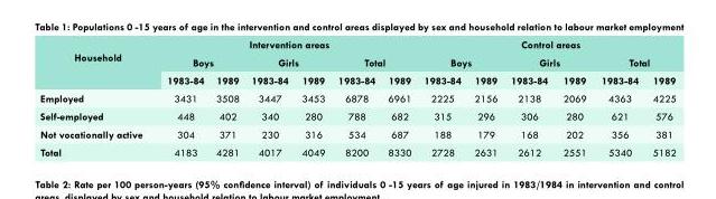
<table><thead><tr><td rowspan="3">Household</td><td colspan="6">Intervention areas</td><td colspan="6">Control areas</td></tr><tr><td colspan="2">Boys</td><td colspan="2">Girls</td><td colspan="2">Total</td><td colspan="2">Boys</td><td colspan="2">Girls</td><td colspan="2">Total</td></tr><tr><td>1983-84</td><td>1989</td><td>1983-84</td><td>1989</td><td>1983-84</td><td>1989</td><td>1983-84</td><td>1989</td><td>1983-84</td><td>1989</td><td>1983-84</td><td>1989</td></tr></thead><tbody><tr><td>Employed</td><td>3431</td><td>3508</td><td>3447</td><td>3453</td><td>6878</td><td>6961</td><td>2225</td><td>2156</td><td>2138</td><td>2069</td><td>4363</td><td>4225</td></tr><tr><td>Self-employed</td><td>448</td><td>402</td><td>340</td><td>280</td><td>788</td><td>682</td><td>315</td><td>296</td><td>306</td><td>280</td><td>621</td><td>576</td></tr><tr><td>Not vocationally active</td><td>304</td><td>371</td><td>230</td><td>316</td><td>534</td><td>687</td><td>188</td><td>179</td><td>168</td><td>202</td><td>356</td><td>381</td></tr><tr><td>Total</td><td>4183</td><td>4281</td><td>4017</td><td>4049</td><td>8200</td><td>8330</td><td>2728</td><td>2631</td><td>2612</td><td>2551</td><td>5340</td><td>5182</td></tr></tbody></table>